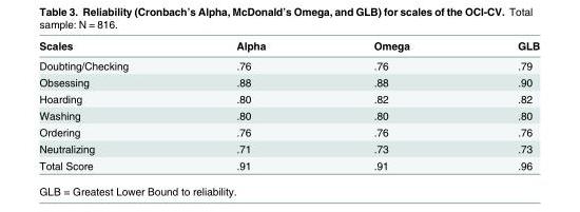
<table><thead><tr><td>Scales</td><td>Alpha</td><td>Omega</td><td>GLB</td></tr></thead><tbody><tr><td>Doubting/Checking</td><td>.76</td><td>.76</td><td>.79</td></tr><tr><td>Obsessing</td><td>.88</td><td>.88</td><td>.90</td></tr><tr><td>Hoarding</td><td>.80</td><td>.82</td><td>.82</td></tr><tr><td>Washing</td><td>.80</td><td>.80</td><td>.80</td></tr><tr><td>Ordering</td><td>.76</td><td>.76</td><td>.76</td></tr><tr><td>Neutralizing</td><td>.71</td><td>.73</td><td>.73</td></tr><tr><td>Total Score</td><td>.91</td><td>.91</td><td>.96</td></tr></tbody></table>